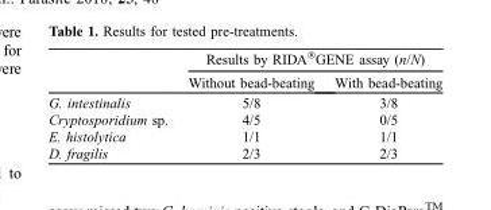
<table><thead><tr><td rowspan="2"></td><td colspan="2">Results by RIDA<sup>®</sup>GENE assay (n/N)</td></tr><tr><td>Without bead-beating</td><td>With bead-beating</td></tr></thead><tbody><tr><td>G. intestinalis</td><td>5/8</td><td>3/8</td></tr><tr><td>Cryptosporidium sp.</td><td>4/5</td><td>0/5</td></tr><tr><td>E. histolytica</td><td>1/1</td><td>1/1</td></tr><tr><td>D. fragilis</td><td>2/3</td><td>2/3</td></tr></tbody></table>